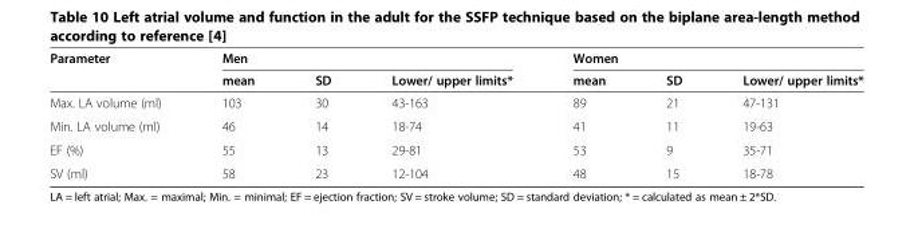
<table><thead><tr><td rowspan="2">Parameter</td><td colspan="3">Men</td><td colspan="3">Women</td></tr><tr><td>mean</td><td>SD</td><td>Lower/ upper limits*</td><td>mean</td><td>SD</td><td>Lower/ upper limits*</td></tr></thead><tbody><tr><td>Max. LA volume (ml)</td><td>103</td><td>30</td><td>43-163</td><td>89</td><td>21</td><td>47-131</td></tr><tr><td>Min. LA volume (ml)</td><td>46</td><td>14</td><td>18-74</td><td>41</td><td>11</td><td>19-63</td></tr><tr><td>EF (%)</td><td>55</td><td>13</td><td>29-81</td><td>53</td><td>9</td><td>35-71</td></tr><tr><td>SV (ml)</td><td>58</td><td>23</td><td>12-104</td><td>48</td><td>15</td><td>18-78</td></tr></tbody></table>